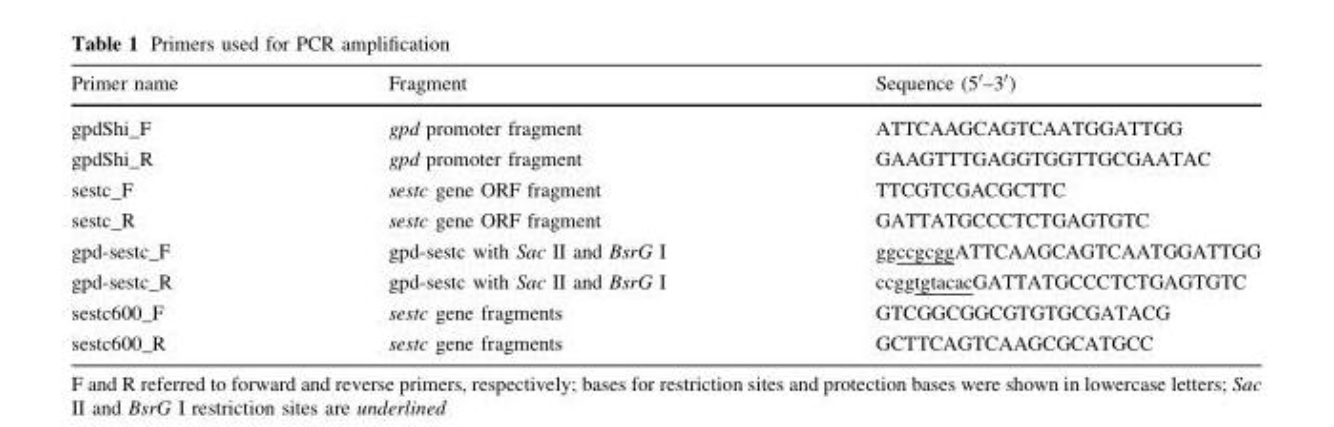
<table><thead><tr><td>Primer name</td><td>Fragment</td><td>Sequence (5′–3′)</td></tr></thead><tbody><tr><td>gpdShi_F</td><td>gpd promoter fragment</td><td>ATTCAAGCAGTCAATGGATTGG</td></tr><tr><td>gpdShi_R</td><td>gpd promoter fragment</td><td>GAAGTTTGAGGTGGTTGCGAATAC</td></tr><tr><td>sestc_F</td><td>sestc gene ORF fragment</td><td>TTCGTCGACGCTTC</td></tr><tr><td>sestc_R</td><td>sestc gene ORF fragment</td><td>GATTATGCCCTCTGAGTGTC</td></tr><tr><td>gpd-sestc_F</td><td>gpd-sestc with Sac II and BsrG I</td><td>ggccgcggATTCAAGCAGTCAATGGATTGG</td></tr><tr><td>gpd-sestc_R</td><td>gpd-sestc with Sac II and BsrG I</td><td>ccggtgtacacGATTATGCCCTCTGAGTGTC</td></tr><tr><td>sestc600_F</td><td>sestc gene fragments</td><td>GTCGGCGGCGTGTGCGATACG</td></tr><tr><td>sestc600_R</td><td>sestc gene fragments</td><td>GCTTCAGTCAAGCGCATGCC</td></tr></tbody></table>